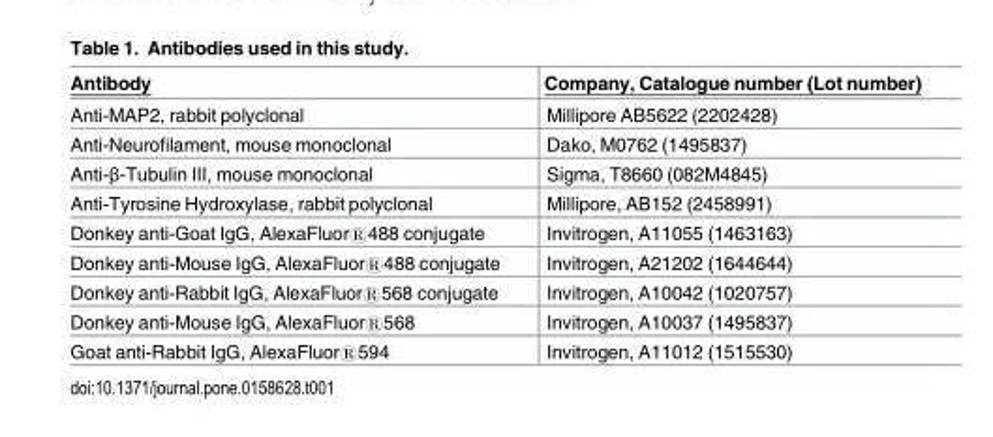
<table><thead><tr><td>Antibody</td><td>Company, Catalogue number (Lot number)</td></tr></thead><tbody><tr><td>Anti-MAP2, rabbit polyclonal</td><td>Millipore AB5622 (2202428)</td></tr><tr><td>Anti-Neurofilament, mouse monoclonal</td><td>Dako, M0762 (1495837)</td></tr><tr><td>Anti-β-Tubulin III, mouse monoclonal</td><td>Sigma, T8660 (082M4845)</td></tr><tr><td>Anti-Tyrosine Hydroxylase, rabbit polyclonal</td><td>Millipore, AB152 (2458991)</td></tr><tr><td>Donkey anti-Goat IgG, AlexaFluor®488 conjugate</td><td>Invitrogen, A11055 (1463163)</td></tr><tr><td>Donkey anti-Mouse IgG, AlexaFluor®488 conjugate</td><td>Invitrogen, A21202 (1644644)</td></tr><tr><td>Donkey anti-Rabbit IgG, AlexaFluor®568 conjugate</td><td>Invitrogen, A10042 (1020757)</td></tr><tr><td>Donkey anti-Mouse IgG, AlexaFluor®568</td><td>Invitrogen, A10037 (1495837)</td></tr><tr><td>Goat anti-Rabbit IgG, AlexaFluor®594</td><td>Invitrogen, A11012 (1515530)</td></tr></tbody></table>